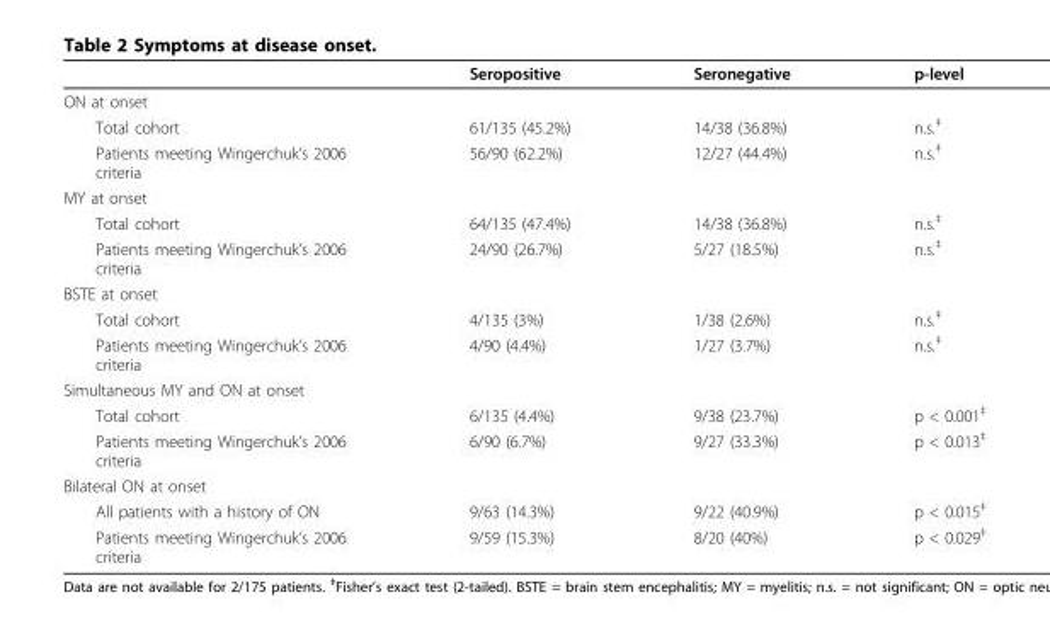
<table><thead><tr><td></td><td>Seropositive</td><td>Seronegative</td><td>p-level</td></tr></thead><tbody><tr><td colspan="4">ON at onset</td></tr><tr><td>Total cohort</td><td>61/135 (45.2%)</td><td>14/38 (36.8%)</td><td>n.s.<sup>‡</sup></td></tr><tr><td>Patients meeting Wingerchuk’s 2006 criteria</td><td>56/90 (62.2%)</td><td>12/27 (44.4%)</td><td>n.s.<sup>‡</sup></td></tr><tr><td colspan="4">MY at onset</td></tr><tr><td>Total cohort</td><td>64/135 (47.4%)</td><td>14/38 (36.8%)</td><td>n.s.<sup>‡</sup></td></tr><tr><td>Patients meeting Wingerchuk’s 2006 criteria</td><td>24/90 (26.7%)</td><td>5/27 (18.5%)</td><td>n.s.<sup>‡</sup></td></tr><tr><td colspan="4">BSTE at onset</td></tr><tr><td>Total cohort</td><td>4/135 (3%)</td><td>1/38 (2.6%)</td><td>n.s.<sup>‡</sup></td></tr><tr><td>Patients meeting Wingerchuk’s 2006 criteria</td><td>4/90 (4.4%)</td><td>1/27 (3.7%)</td><td>n.s.<sup>‡</sup></td></tr><tr><td colspan="4">Simultaneous MY and ON at onset</td></tr><tr><td>Total cohort</td><td>6/135 (4.4%)</td><td>9/38 (23.7%)</td><td>p &lt; 0.001<sup>‡</sup></td></tr><tr><td>Patients meeting Wingerchuk’s 2006 criteria</td><td>6/90 (6.7%)</td><td>9/27 (33.3%)</td><td>p &lt; 0.013<sup>‡</sup></td></tr><tr><td colspan="4">Bilateral ON at onset</td></tr><tr><td>All patients with a history of ON</td><td>9/63 (14.3%)</td><td>9/22 (40.9%)</td><td>p &lt; 0.015<sup>‡</sup></td></tr><tr><td>Patients meeting Wingerchuk’s 2006 criteria</td><td>9/59 (15.3%)</td><td>8/20 (40%)</td><td>p &lt; 0.029<sup>‡</sup></td></tr></tbody></table>